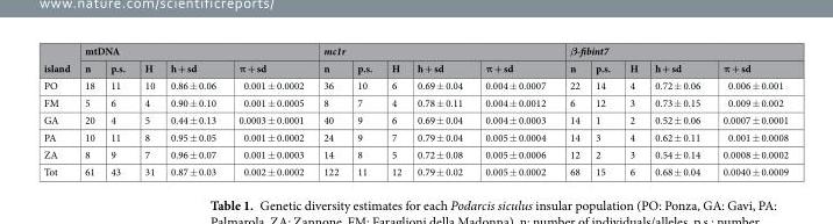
<table><thead><tr><td rowspan="2">island</td><td colspan="5">mtDNA</td><td colspan="5">mc1r</td><td colspan="5">β-fibint7</td></tr><tr><td>n</td><td>p.s.</td><td>H</td><td>h + sd</td><td>π + sd</td><td>n</td><td>p.s.</td><td>H</td><td>h + sd</td><td>π + sd</td><td>n</td><td>p.s.</td><td>H</td><td>h + sd</td><td>π + sd</td></tr></thead><tbody><tr><td>PO</td><td>18</td><td>11</td><td>10</td><td>0.86 ± 0.06</td><td>0.001 ± 0.0002</td><td>36</td><td>10</td><td>6</td><td>0.69 ± 0.04</td><td>0.004 ± 0.0007</td><td>22</td><td>14</td><td>4</td><td>0.72 ± 0.06</td><td>0.006 ± 0.001</td></tr><tr><td>FM</td><td>5</td><td>6</td><td>4</td><td>0.90 ± 0.10</td><td>0.001 ± 0.0005</td><td>8</td><td>7</td><td>4</td><td>0.78 ± 0.11</td><td>0.004 ± 0.0012</td><td>6</td><td>12</td><td>3</td><td>0.73 ± 0.15</td><td>0.009 ± 0.002</td></tr><tr><td>GA</td><td>20</td><td>4</td><td>5</td><td>0.44 ± 0.13</td><td>0.0003 ± 0.0001</td><td>40</td><td>9</td><td>6</td><td>0.69 ± 0.04</td><td>0.004 ± 0.0003</td><td>14</td><td>1</td><td>2</td><td>0.52 ± 0.06</td><td>0.0007 ± 0.0001</td></tr><tr><td>PA</td><td>10</td><td>11</td><td>8</td><td>0.95 ± 0.05</td><td>0.001 ± 0.0002</td><td>24</td><td>9</td><td>7</td><td>0.79 ± 0.04</td><td>0.005 ± 0.0004</td><td>14</td><td>3</td><td>4</td><td>0.62 ± 0.11</td><td>0.001 ± 0.0008</td></tr><tr><td>ZA</td><td>8</td><td>9</td><td>7</td><td>0.96 ± 0.07</td><td>0.001 ± 0.0003</td><td>14</td><td>8</td><td>5</td><td>0.72 ± 0.08</td><td>0.005 ± 0.0006</td><td>12</td><td>2</td><td>3</td><td>0.54 ± 0.14</td><td>0.0008 ± 0.0002</td></tr><tr><td>Tot</td><td>61</td><td>43</td><td>31</td><td>0.87 ± 0.03</td><td>0.002 ± 0.0002</td><td>122</td><td>11</td><td>12</td><td>0.79 ± 0.02</td><td>0.005 ± 0.0002</td><td>68</td><td>15</td><td>6</td><td>0.68 ± 0.04</td><td>0.0040 ± 0.0009</td></tr></tbody></table>